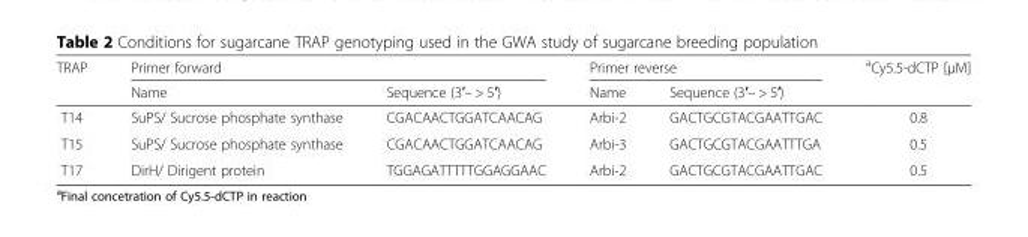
<table><thead><tr><td rowspan="2">TRAP</td><td colspan="2">Primer forward</td><td colspan="2">Primer reverse</td><td rowspan="2"><sup>a</sup>Cy5.5-dCTP [μM]</td></tr><tr><td>Name</td><td>Sequence (3′– &gt; 5′)</td><td>Name</td><td>Sequence (3′– &gt; 5′)</td></tr></thead><tbody><tr><td>T14</td><td>SuPS/ Sucrose phosphate synthase</td><td>CGACAACTGGATCAACAG</td><td>Arbi-2</td><td>GACTGCGTACGAATTGAC</td><td>0.8</td></tr><tr><td>T15</td><td>SuPS/ Sucrose phosphate synthase</td><td>CGACAACTGGATCAACAG</td><td>Arbi-3</td><td>GACTGCGTACGAATTTGA</td><td>0.5</td></tr><tr><td>T17</td><td>DirH/ Dirigent protein</td><td>TGGAGATTTTTGGAGGAAC</td><td>Arbi-2</td><td>GACTGCGTACGAATTGAC</td><td>0.5</td></tr></tbody></table>